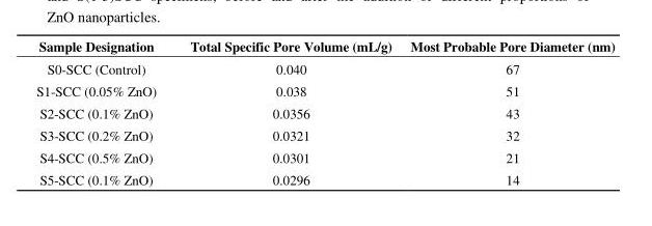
<table><thead><tr><td>Sample Designation</td><td>Total Specific Pore Volume (mL/g)</td><td>Most Probable Pore Diameter (nm)</td></tr></thead><tbody><tr><td>S0-SCC (Control)</td><td>0.040</td><td>67</td></tr><tr><td>S1-SCC (0.05% ZnO)</td><td>0.038</td><td>51</td></tr><tr><td>S2-SCC (0.1% ZnO)</td><td>0.0356</td><td>43</td></tr><tr><td>S3-SCC (0.2% ZnO)</td><td>0.0321</td><td>32</td></tr><tr><td>S4-SCC (0.5% ZnO)</td><td>0.0301</td><td>21</td></tr><tr><td>S5-SCC (0.1% ZnO)</td><td>0.0296</td><td>14</td></tr></tbody></table>